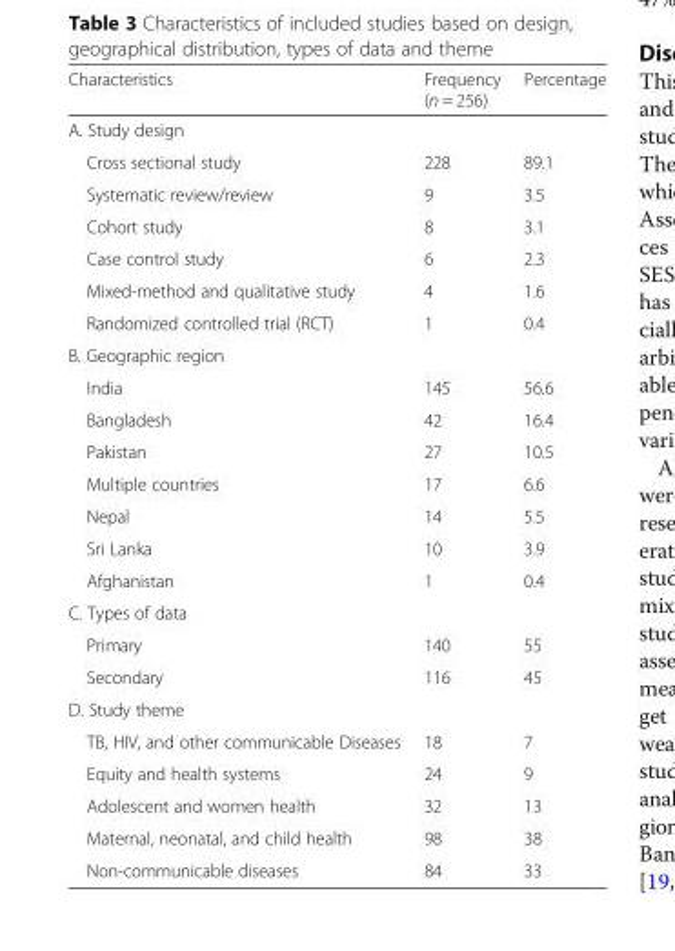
<table><thead><tr><td>Characteristics</td><td>Frequency (n = 256)</td><td>Percentage</td></tr></thead><tbody><tr><td colspan="3">A. Study design</td></tr><tr><td>Cross sectional study</td><td>228</td><td>89.1</td></tr><tr><td>Systematic review/review</td><td>9</td><td>3.5</td></tr><tr><td>Cohort study</td><td>8</td><td>3.1</td></tr><tr><td>Case control study</td><td>6</td><td>2.3</td></tr><tr><td>Mixed-method and qualitative study</td><td>4</td><td>1.6</td></tr><tr><td>Randomized controlled trial (RCT)</td><td>1</td><td>0.4</td></tr><tr><td colspan="3">B. Geographic region</td></tr><tr><td>India</td><td>145</td><td>56.6</td></tr><tr><td>Bangladesh</td><td>42</td><td>16.4</td></tr><tr><td>Pakistan</td><td>27</td><td>10.5</td></tr><tr><td>Multiple countries</td><td>17</td><td>6.6</td></tr><tr><td>Nepal</td><td>14</td><td>5.5</td></tr><tr><td>Sri Lanka</td><td>10</td><td>3.9</td></tr><tr><td>Afghanistan</td><td>1</td><td>0.4</td></tr><tr><td colspan="3">C. Types of data</td></tr><tr><td>Primary</td><td>140</td><td>55</td></tr><tr><td>Secondary</td><td>116</td><td>45</td></tr><tr><td colspan="3">D. Study theme</td></tr><tr><td>TB, HIV, and other communicable Diseases</td><td>18</td><td>7</td></tr><tr><td>Equity and health systems</td><td>24</td><td>9</td></tr><tr><td>Adolescent and women health</td><td>32</td><td>13</td></tr><tr><td>Maternal, neonatal, and child health</td><td>98</td><td>38</td></tr><tr><td>Non-communicable diseases</td><td>84</td><td>33</td></tr></tbody></table>